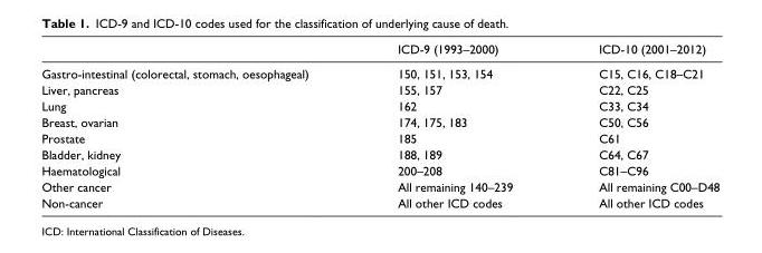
<table><thead><tr><td></td><td>ICD-9 (1993–2000)</td><td>ICD-10 (2001–2012)</td></tr></thead><tbody><tr><td>Gastro-intestinal (colorectal, stomach, oesophageal)</td><td>150, 151, 153, 154</td><td>C15, C16, C18–C21</td></tr><tr><td>Liver, pancreas</td><td>155, 157</td><td>C22, C25</td></tr><tr><td>Lung</td><td>162</td><td>C33, C34</td></tr><tr><td>Breast, ovarian</td><td>174, 175, 183</td><td>C50, C56</td></tr><tr><td>Prostate</td><td>185</td><td>C61</td></tr><tr><td>Bladder, kidney</td><td>188, 189</td><td>C64, C67</td></tr><tr><td>Haematological</td><td>200–208</td><td>C81–C96</td></tr><tr><td>Other cancer</td><td>All remaining 140–239</td><td>All remaining C00–D48</td></tr><tr><td>Non-cancer</td><td>All other ICD codes</td><td>All other ICD codes</td></tr></tbody></table>